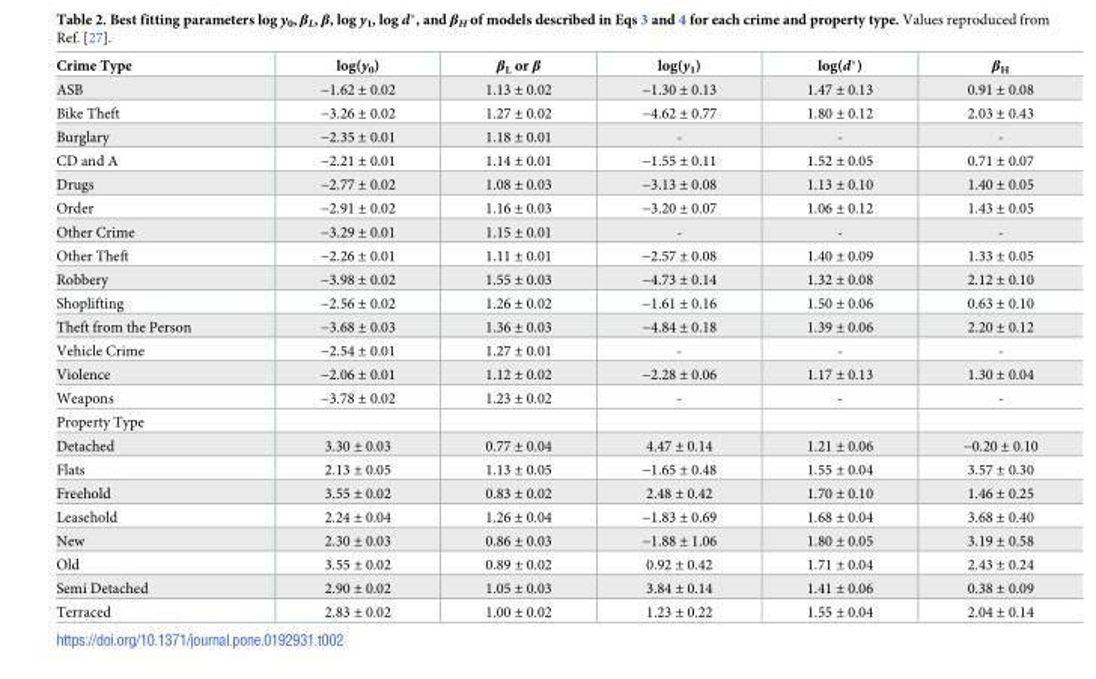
<table><thead><tr><td>Crime Type</td><td>log(y<sub>0</sub>)</td><td>β<sub>L</sub> or β</td><td>log(y<sub>1</sub>)</td><td>log(d*)</td><td>β<sub>H</sub></td></tr></thead><tbody><tr><td>ASB</td><td>−1.62 ± 0.02</td><td>1.13 ± 0.02</td><td>−1.30 ± 0.13</td><td>1.47 ± 0.13</td><td>0.91 ± 0.08</td></tr><tr><td>Bike Theft</td><td>−3.26 ± 0.02</td><td>1.27 ± 0.02</td><td>−4.62 ± 0.77</td><td>1.80 ± 0.12</td><td>2.03 ± 0.43</td></tr><tr><td>Burglary</td><td>−2.35 ± 0.01</td><td>1.18 ± 0.01</td><td>-</td><td>-</td><td>-</td></tr><tr><td>CD and A</td><td>−2.21 ± 0.01</td><td>1.14 ± 0.01</td><td>−1.55 ± 0.11</td><td>1.52 ± 0.05</td><td>0.71 ± 0.07</td></tr><tr><td>Drugs</td><td>−2.77 ± 0.02</td><td>1.08 ± 0.03</td><td>−3.13 ± 0.08</td><td>1.13 ± 0.10</td><td>1.40 ± 0.05</td></tr><tr><td>Order</td><td>−2.91 ± 0.02</td><td>1.16 ± 0.03</td><td>−3.20 ± 0.07</td><td>1.06 ± 0.12</td><td>1.43 ± 0.05</td></tr><tr><td>Other Crime</td><td>−3.29 ± 0.01</td><td>1.15 ± 0.01</td><td>-</td><td>-</td><td>-</td></tr><tr><td>Other Theft</td><td>−2.26 ± 0.01</td><td>1.11 ± 0.01</td><td>−2.57 ± 0.08</td><td>1.40 ± 0.09</td><td>1.33 ± 0.05</td></tr><tr><td>Robbery</td><td>−3.98 ± 0.02</td><td>1.55 ± 0.03</td><td>−4.73 ± 0.14</td><td>1.32 ± 0.08</td><td>2.12 ± 0.10</td></tr><tr><td>Shoplifting</td><td>−2.56 ± 0.02</td><td>1.26 ± 0.02</td><td>−1.61 ± 0.16</td><td>1.50 ± 0.06</td><td>0.63 ± 0.10</td></tr><tr><td>Theft from the Person</td><td>−3.68 ± 0.03</td><td>1.36 ± 0.03</td><td>−4.84 ± 0.18</td><td>1.39 ± 0.06</td><td>2.20 ± 0.12</td></tr><tr><td>Vehicle Crime</td><td>−2.54 ± 0.01</td><td>1.27 ± 0.01</td><td>-</td><td>-</td><td>-</td></tr><tr><td>Violence</td><td>−2.06 ± 0.01</td><td>1.12 ± 0.02</td><td>−2.28 ± 0.06</td><td>1.17 ± 0.13</td><td>1.30 ± 0.04</td></tr><tr><td>Weapons</td><td>−3.78 ± 0.02</td><td>1.23 ± 0.02</td><td>-</td><td>-</td><td>-</td></tr><tr><td colspan="6">Property Type</td></tr><tr><td>Detached</td><td>3.30 ± 0.03</td><td>0.77 ± 0.04</td><td>4.47 ± 0.14</td><td>1.21 ± 0.06</td><td>−0.20 ± 0.10</td></tr><tr><td>Flats</td><td>2.13 ± 0.05</td><td>1.13 ± 0.05</td><td>−1.65 ± 0.48</td><td>1.55 ± 0.04</td><td>3.57 ± 0.30</td></tr><tr><td>Freehold</td><td>3.55 ± 0.02</td><td>0.83 ± 0.02</td><td>2.48 ± 0.42</td><td>1.70 ± 0.10</td><td>1.46 ± 0.25</td></tr><tr><td>Leasehold</td><td>2.24 ± 0.04</td><td>1.26 ± 0.04</td><td>−1.83 ± 0.69</td><td>1.68 ± 0.04</td><td>3.68 ± 0.40</td></tr><tr><td>New</td><td>2.30 ± 0.03</td><td>0.86 ± 0.03</td><td>−1.88 ± 1.06</td><td>1.80 ± 0.05</td><td>3.19 ± 0.58</td></tr><tr><td>Old</td><td>3.55 ± 0.02</td><td>0.89 ± 0.02</td><td>0.92 ± 0.42</td><td>1.71 ± 0.04</td><td>2.43 ± 0.24</td></tr><tr><td>Semi Detached</td><td>2.90 ± 0.02</td><td>1.05 ± 0.03</td><td>3.84 ± 0.14</td><td>1.41 ± 0.06</td><td>0.38 ± 0.09</td></tr><tr><td>Terraced</td><td>2.83 ± 0.02</td><td>1.00 ± 0.02</td><td>1.23 ± 0.22</td><td>1.55 ± 0.04</td><td>2.04 ± 0.14</td></tr></tbody></table>